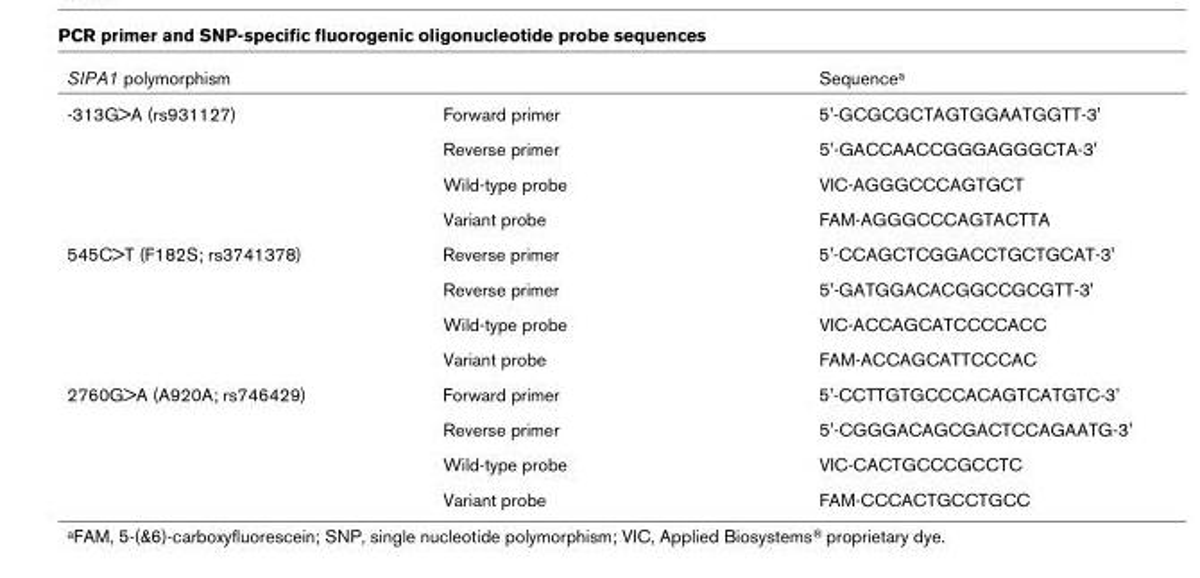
<table><thead><tr><td colspan="2">SIPA1 polymorphism</td><td rowspan="2">Sequencea 5&#x27;-GCGCGCTAGTGGAATGGTT-3&#x27;</td></tr><tr><td>-313G&gt;A (rs931127)</td><td>Forward primer</td></tr></thead><tbody><tr><td></td><td>Reverse primer</td><td>5&#x27;-GACCAACCGGGAGGGCTA-3&#x27;</td></tr><tr><td></td><td>Wild-type probe</td><td>VIC-AGGGCCCAGTGCT</td></tr><tr><td></td><td>Variant probe</td><td>FAM-AGGGCCCAGTACTTA</td></tr><tr><td rowspan="4">545C&gt;T (F182S; rs3741378)</td><td>Reverse primer</td><td>5&#x27;-CCAGCTCGGACCTGCTGCAT-3&#x27;</td></tr><tr><td>Reverse primer</td><td>5&#x27;-GATGGACACGGCCGCGTT-3&#x27;</td></tr><tr><td>Wild-type probe</td><td>VIC-ACCAGCATCCCCACC</td></tr><tr><td>Variant probe</td><td>FAM-ACCAGCATTCCCAC</td></tr><tr><td rowspan="4">2760G&gt;A (A920A; rs746429)</td><td>Forward primer</td><td>5&#x27;-CCTTGTGCCCACAGTCATGTC-3&#x27;</td></tr><tr><td>Reverse primer</td><td>5&#x27;-CGGGACAGCGACTCCAGAATG-3&#x27;</td></tr><tr><td>Wild-type probe</td><td>VIC-CACTGCCCGCCTC</td></tr><tr><td>Variant probe</td><td>FAM-CCCACTGCCTGCC</td></tr></tbody></table>